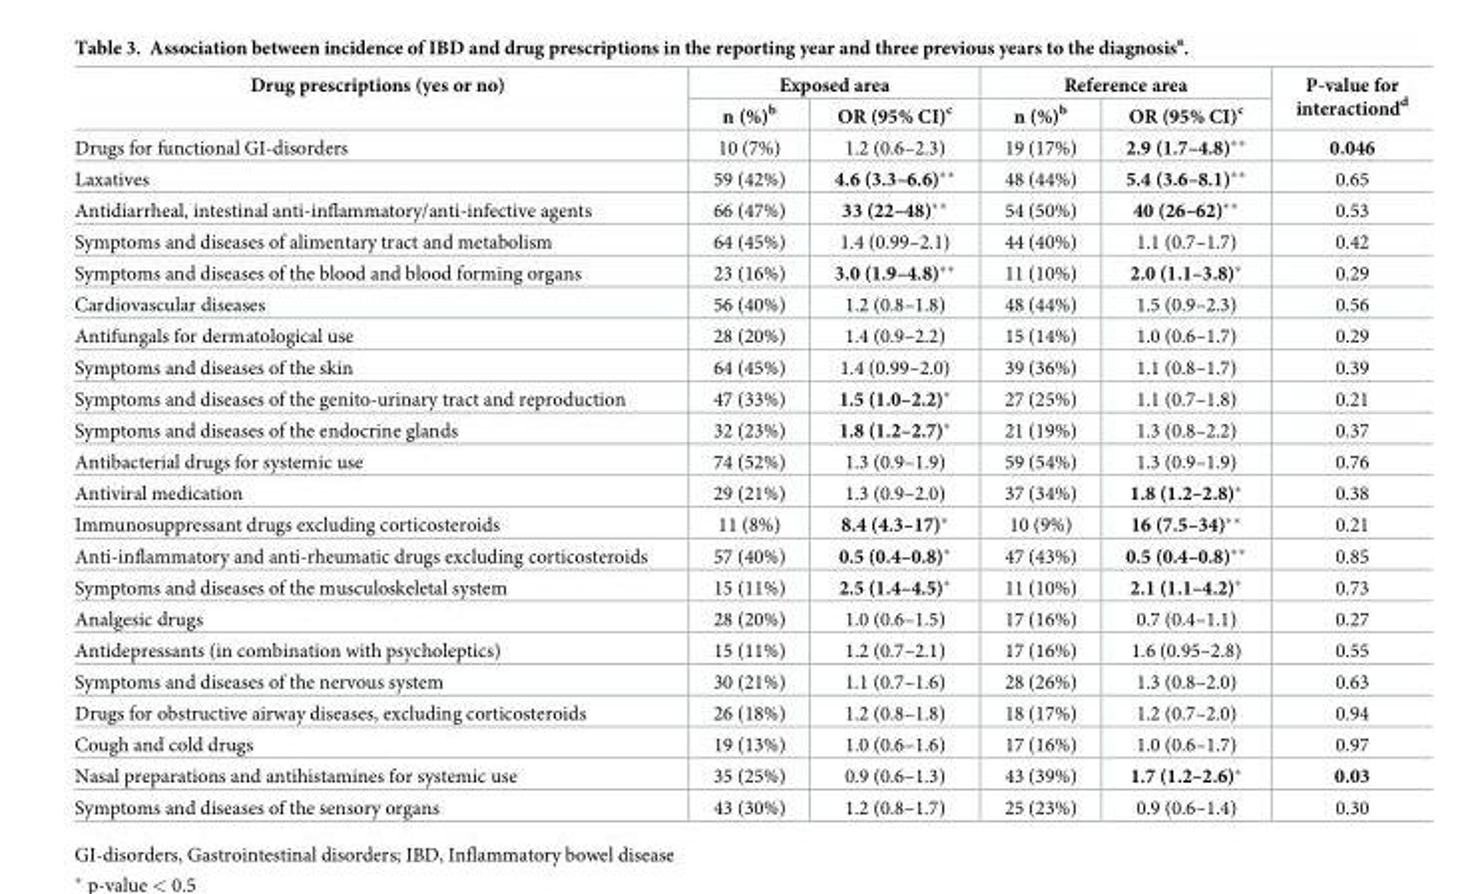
<table><thead><tr><td rowspan="2">Drug prescriptions (yes or no)</td><td colspan="2">Exposed area</td><td colspan="2">Reference area</td><td rowspan="2">P-value for interactiond<sup>d</sup></td></tr><tr><td>n (%)<sup>b</sup></td><td>OR (95% CI)<sup>c</sup></td><td>n (%)<sup>b</sup></td><td>OR (95% CI)<sup>c</sup></td></tr></thead><tbody><tr><td>Drugs for functional GI-disorders</td><td>10 (7%)</td><td>1.2 (0.6–2.3)</td><td>19 (17%)</td><td>2.9 (1.7–4.8)**</td><td>0.046</td></tr><tr><td>Laxatives</td><td>59 (42%)</td><td>4.6 (3.3–6.6)**</td><td>48 (44%)</td><td>5.4 (3.6–8.1)**</td><td>0.65</td></tr><tr><td>Antidiarrheal, intestinal anti-inflammatory/anti-infective agents</td><td>66 (47%)</td><td>33 (22–48)**</td><td>54 (50%)</td><td>40 (26–62)**</td><td>0.53</td></tr><tr><td>Symptoms and diseases of alimentary tract and metabolism</td><td>64 (45%)</td><td>1.4 (0.99–2.1)</td><td>44 (40%)</td><td>1.1 (0.7–1.7)</td><td>0.42</td></tr><tr><td>Symptoms and diseases of the blood and blood forming organs</td><td>23 (16%)</td><td>3.0 (1.9–4.8)**</td><td>11 (10%)</td><td>2.0 (1.1–3.8)*</td><td>0.29</td></tr><tr><td>Cardiovascular diseases</td><td>56 (40%)</td><td>1.2 (0.8–1.8)</td><td>48 (44%)</td><td>1.5 (0.9–2.3)</td><td>0.56</td></tr><tr><td>Antifungals for dermatological use</td><td>28 (20%)</td><td>1.4 (0.9–2.2)</td><td>15 (14%)</td><td>1.0 (0.6–1.7)</td><td>0.29</td></tr><tr><td>Symptoms and diseases of the skin</td><td>64 (45%)</td><td>1.4 (0.99–2.0)</td><td>39 (36%)</td><td>1.1 (0.8–1.7)</td><td>0.39</td></tr><tr><td>Symptoms and diseases of the genito-urinary tract and reproduction</td><td>47 (33%)</td><td>1.5 (1.0–2.2)*</td><td>27 (25%)</td><td>1.1 (0.7–1.8)</td><td>0.21</td></tr><tr><td>Symptoms and diseases of the endocrine glands</td><td>32 (23%)</td><td>1.8 (1.2–2.7)*</td><td>21 (19%)</td><td>1.3 (0.8–2.2)</td><td>0.37</td></tr><tr><td>Antibacterial drugs for systemic use</td><td>74 (52%)</td><td>1.3 (0.9–1.9)</td><td>59 (54%)</td><td>1.3 (0.9–1.9)</td><td>0.76</td></tr><tr><td>Antiviral medication</td><td>29 (21%)</td><td>1.3 (0.9–2.0)</td><td>37 (34%)</td><td>1.8 (1.2–2.8)*</td><td>0.38</td></tr><tr><td>Immunosuppressant drugs excluding corticosteroids</td><td>11 (8%)</td><td>8.4 (4.3–17)*</td><td>10 (9%)</td><td>16 (7.5–34)**</td><td>0.21</td></tr><tr><td>Anti-inflammatory and anti-rheumatic drugs excluding corticosteroids</td><td>57 (40%)</td><td>0.5 (0.4–0.8)*</td><td>47 (43%)</td><td>0.5 (0.4–0.8)**</td><td>0.85</td></tr><tr><td>Symptoms and diseases of the musculoskeletal system</td><td>15 (11%)</td><td>2.5 (1.4–4.5)*</td><td>11 (10%)</td><td>2.1 (1.1–4.2)*</td><td>0.73</td></tr><tr><td>Analgesic drugs</td><td>28 (20%)</td><td>1.0 (0.6–1.5)</td><td>17 (16%)</td><td>0.7 (0.4–1.1)</td><td>0.27</td></tr><tr><td>Antidepressants (in combination with psycholeptics)</td><td>15 (11%)</td><td>1.2 (0.7–2.1)</td><td>17 (16%)</td><td>1.6 (0.95–2.8)</td><td>0.55</td></tr><tr><td>Symptoms and diseases of the nervous system</td><td>30 (21%)</td><td>1.1 (0.7–1.6)</td><td>28 (26%)</td><td>1.3 (0.8–2.0)</td><td>0.63</td></tr><tr><td>Drugs for obstructive airway diseases, excluding corticosteroids</td><td>26 (18%)</td><td>1.2 (0.8–1.8)</td><td>18 (17%)</td><td>1.2 (0.7–2.0)</td><td>0.94</td></tr><tr><td>Cough and cold drugs</td><td>19 (13%)</td><td>1.0 (0.6–1.6)</td><td>17 (16%)</td><td>1.0 (0.6–1.7)</td><td>0.97</td></tr><tr><td>Nasal preparations and antihistamines for systemic use</td><td>35 (25%)</td><td>0.9 (0.6–1.3)</td><td>43 (39%)</td><td>1.7 (1.2–2.6)*</td><td>0.03</td></tr><tr><td>Symptoms and diseases of the sensory organs</td><td>43 (30%)</td><td>1.2 (0.8–1.7)</td><td>25 (23%)</td><td>0.9 (0.6–1.4)</td><td>0.30</td></tr></tbody></table>